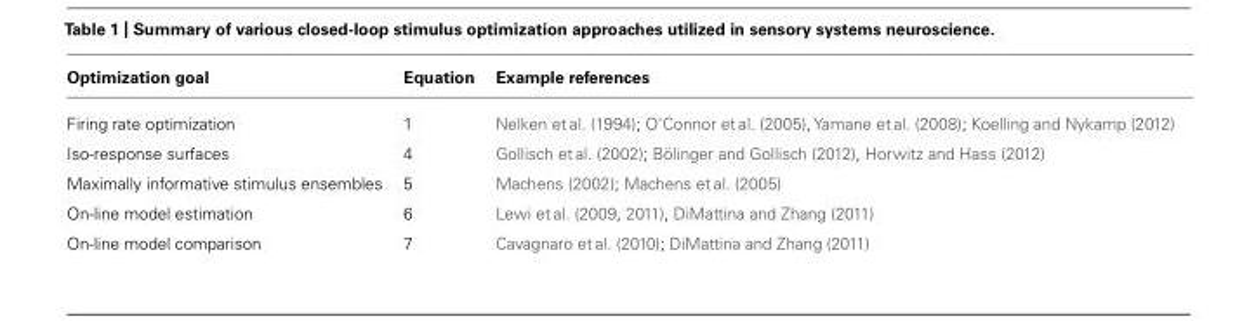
<table><thead><tr><td>Optimization goal</td><td>Equation</td><td>Example references</td></tr></thead><tbody><tr><td>Firing rate optimization</td><td>1</td><td>Nelken et al. (1994); O’Connor et al. (2005), Yamane et al. (2008); Koelling and Nykamp (2012)</td></tr><tr><td>Iso-response surfaces</td><td>4</td><td>Gollisch et al. (2002); Bölinger and Gollisch (2012), Horwitz and Hass (2012)</td></tr><tr><td>Maximally informative stimulus ensembles</td><td>5</td><td>Machens (2002); Machens et al. (2005)</td></tr><tr><td>On-line model estimation</td><td>6</td><td>Lewi et al. (2009, 2011), DiMattina and Zhang (2011)</td></tr><tr><td>On-line model comparison</td><td>7</td><td>Cavagnaro et al. (2010); DiMattina and Zhang (2011)</td></tr></tbody></table>